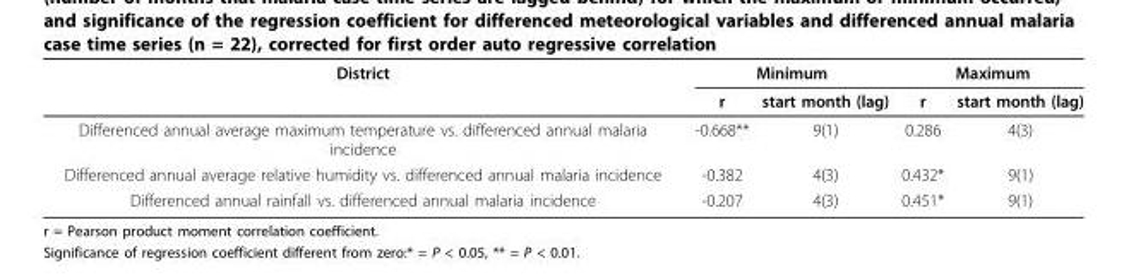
<table><thead><tr><td rowspan="2">District</td><td colspan="2">Minimum</td><td colspan="2">Maximum</td></tr><tr><td>r</td><td>start month (lag)</td><td>r</td><td>start month (lag)</td></tr></thead><tbody><tr><td>Differenced annual average maximum temperature vs. differenced annual malaria incidence</td><td>-0.668**</td><td>9(1)</td><td>0.286</td><td>4(3)</td></tr><tr><td>Differenced annual average relative humidity vs. differenced annual malaria incidence</td><td>-0.382</td><td>4(3)</td><td>0.432*</td><td>9(1)</td></tr><tr><td>Differenced annual rainfall vs. differenced annual malaria incidence</td><td>-0.207</td><td>4(3)</td><td>0.451*</td><td>9(1)</td></tr></tbody></table>